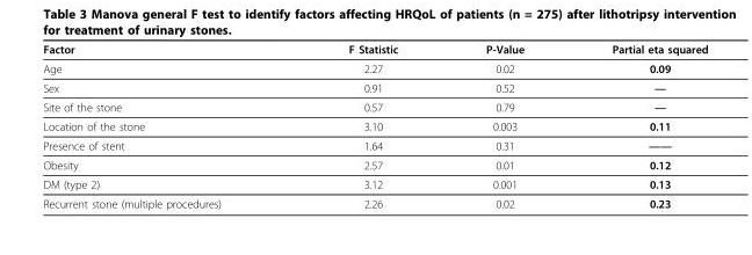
<table><thead><tr><td>Factor</td><td>F Statistic</td><td>P-Value</td><td>Partial eta squared</td></tr></thead><tbody><tr><td>Age</td><td>2.27</td><td>0.02</td><td>0.09</td></tr><tr><td>Sex</td><td>0.91</td><td>0.52</td><td>—</td></tr><tr><td>Site of the stone</td><td>0.57</td><td>0.79</td><td>—</td></tr><tr><td>Location of the stone</td><td>3.10</td><td>0.003</td><td>0.11</td></tr><tr><td>Presence of stent</td><td>1.64</td><td>0.31</td><td>——</td></tr><tr><td>Obesity</td><td>2.57</td><td>0.01</td><td>0.12</td></tr><tr><td>DM (type 2)</td><td>3.12</td><td>0.001</td><td>0.13</td></tr><tr><td>Recurrent stone (multiple procedures)</td><td>2.26</td><td>0.02</td><td>0.23</td></tr></tbody></table>